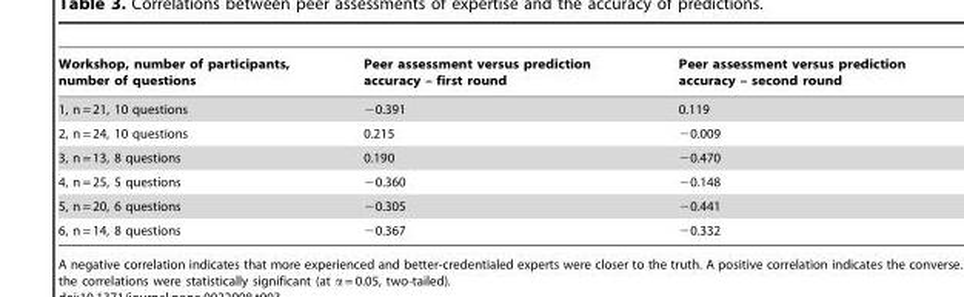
<table><thead><tr><td>Workshop, number of participants, number of questions</td><td>Peer assessment versus prediction accuracy – first round</td><td>Peer assessment versus prediction accuracy – second round</td></tr></thead><tbody><tr><td>1, n = 21, 10 questions</td><td>−0.391</td><td>0.119</td></tr><tr><td>2, n = 24, 10 questions</td><td>0.215</td><td>−0.009</td></tr><tr><td>3, n = 13, 8 questions</td><td>0.190</td><td>−0.470</td></tr><tr><td>4, n = 25, 5 questions</td><td>−0.360</td><td>−0.148</td></tr><tr><td>5, n = 20, 6 questions</td><td>−0.305</td><td>−0.441</td></tr><tr><td>6, n = 14, 8 questions</td><td>−0.367</td><td>−0.332</td></tr></tbody></table>